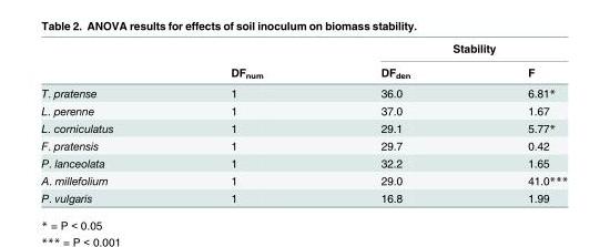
<table><thead><tr><td rowspan="2"></td><td rowspan="2">DF<sub>num</sub></td><td colspan="2">Stability</td></tr><tr><td>DF<sub>den</sub></td><td>F</td></tr></thead><tbody><tr><td>T. pratense</td><td>1</td><td>36.0</td><td>6.81*</td></tr><tr><td>L. perenne</td><td>1</td><td>37.0</td><td>1.67</td></tr><tr><td>L. corniculatus</td><td>1</td><td>29.1</td><td>5.77*</td></tr><tr><td>F. pratensis</td><td>1</td><td>29.7</td><td>0.42</td></tr><tr><td>P. lanceolata</td><td>1</td><td>32.2</td><td>1.65</td></tr><tr><td>A. millefolium</td><td>1</td><td>29.0</td><td>41.0***</td></tr><tr><td>P. vulgaris</td><td>1</td><td>16.8</td><td>1.99</td></tr></tbody></table>